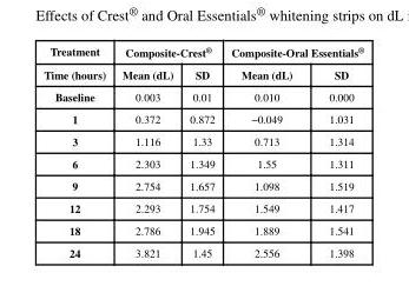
<table><thead><tr><td rowspan="2">Treatment Time (hours)</td><td colspan="2">Composite-Crest<sup>®</sup></td><td colspan="2">Composite-Oral Essentials<sup>®</sup></td></tr><tr><td>Mean (dL)</td><td>SD</td><td>Mean (dL)</td><td>SD</td></tr></thead><tbody><tr><td>Baseline</td><td>0.003</td><td>0.01</td><td>0.010</td><td>0.000</td></tr><tr><td>1</td><td>0.372</td><td>0.872</td><td>−0.049</td><td>1.031</td></tr><tr><td>3</td><td>1.116</td><td>1.33</td><td>0.713</td><td>1.314</td></tr><tr><td>6</td><td>2.303</td><td>1.349</td><td>1.55</td><td>1.311</td></tr><tr><td>9</td><td>2.754</td><td>1.657</td><td>1.098</td><td>1.519</td></tr><tr><td>12</td><td>2.293</td><td>1.754</td><td>1.549</td><td>1.417</td></tr><tr><td>18</td><td>2.786</td><td>1.945</td><td>1.889</td><td>1.541</td></tr><tr><td>24</td><td>3.821</td><td>1.45</td><td>2.556</td><td>1.398</td></tr></tbody></table>